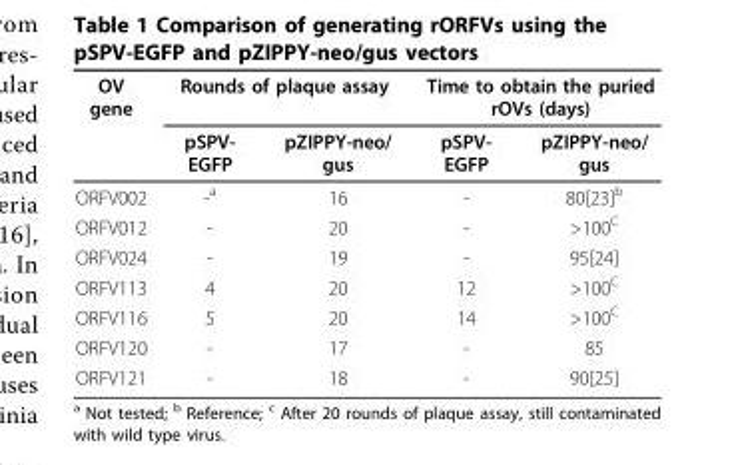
<table><thead><tr><td rowspan="2">OV gene</td><td colspan="2">Rounds of plaque assay</td><td colspan="2">Time to obtain the puried rOVs (days)</td></tr><tr><td>pSPV- EGFP</td><td>pZIPPY-neo/ gus</td><td>pSPV- EGFP</td><td>pZIPPY-neo/ gus</td></tr></thead><tbody><tr><td>ORFV002</td><td>-<sup>a</sup></td><td>16</td><td>-</td><td>80[23]<sup>b</sup></td></tr><tr><td>ORFV012</td><td>-</td><td>20</td><td>-</td><td>&gt;100<sup>C</sup></td></tr><tr><td>ORFV024</td><td>-</td><td>19</td><td>-</td><td>95[24]</td></tr><tr><td>ORFV113</td><td>4</td><td>20</td><td>12</td><td>&gt;100<sup>C</sup></td></tr><tr><td>ORFV116</td><td>5</td><td>20</td><td>14</td><td>&gt;100<sup>C</sup></td></tr><tr><td>ORFV120</td><td>-</td><td>17</td><td>-</td><td>85</td></tr><tr><td>ORFV121</td><td>-</td><td>18</td><td>-</td><td>90[25]</td></tr></tbody></table>